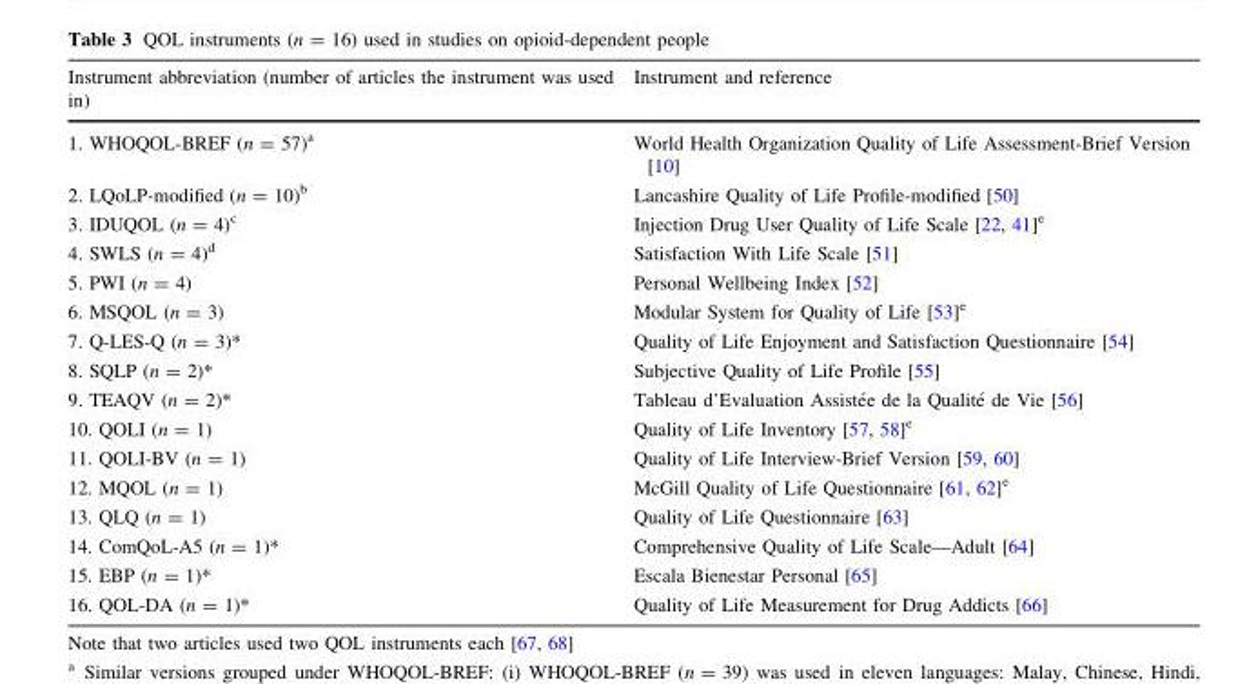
<table><thead><tr><td>Instrument abbreviation (number of articles the instrument was used in)</td><td>Instrument and reference</td></tr></thead><tbody><tr><td>1. WHOQOL-BREF (n = 57)<sup>a</sup></td><td>World Health Organization Quality of Life Assessment-Brief Version [10]</td></tr><tr><td>2. LQoLP-modified (n = 10)<sup>b</sup></td><td>Lancashire Quality of Life Profile-modified [50]</td></tr><tr><td>3. IDUQOL (n = 4)<sup>c</sup></td><td>Injection Drug User Quality of Life Scale [22, 41]<sup>e</sup></td></tr><tr><td>4. SWLS (n = 4)<sup>d</sup></td><td>Satisfaction With Life Scale [51]</td></tr><tr><td>5. PWI (n = 4)</td><td>Personal Wellbeing Index [52]</td></tr><tr><td>6. MSQOL (n = 3)</td><td>Modular System for Quality of Life [53]<sup>e</sup></td></tr><tr><td>7. Q-LES-Q (n = 3)*</td><td>Quality of Life Enjoyment and Satisfaction Questionnaire [54]</td></tr><tr><td>8. SQLP (n = 2)*</td><td>Subjective Quality of Life Profile [55]</td></tr><tr><td>9. TEAQV (n = 2)*</td><td>Tableau d’Evaluation Assiste´e de la Qualite´ de Vie [56]</td></tr><tr><td>10. QOLI (n = 1)</td><td>Quality of Life Inventory [57, 58]<sup>e</sup></td></tr><tr><td>11. QOLI-BV (n = 1)</td><td>Quality of Life Interview-Brief Version [59, 60]</td></tr><tr><td>12. MQOL (n = 1)</td><td>McGill Quality of Life Questionnaire [61, 62]<sup>e</sup></td></tr><tr><td>13. QLQ (n = 1)</td><td>Quality of Life Questionnaire [63]</td></tr><tr><td>14. ComQoL-A5 (n = 1)*</td><td>Comprehensive Quality of Life Scale—Adult [64]</td></tr><tr><td>15. EBP (n = 1)*</td><td>Escala Bienestar Personal [65]</td></tr><tr><td>16. QOL-DA (n = 1)*</td><td>Quality of Life Measurement for Drug Addicts [66]</td></tr></tbody></table>